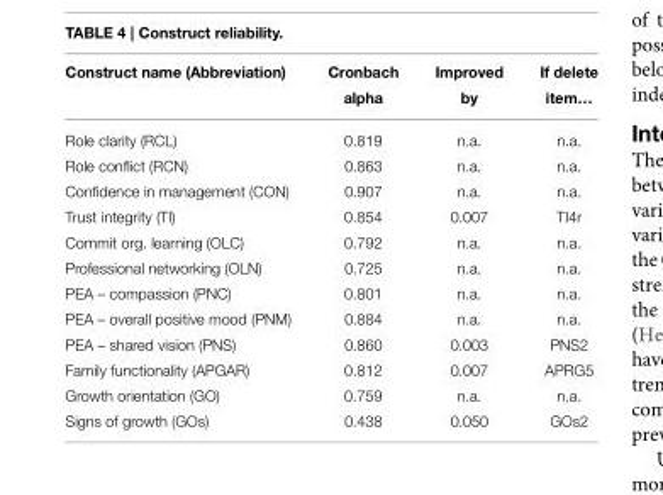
<table><thead><tr><td>Construct name (Abbreviation)</td><td>Cronbach alpha</td><td>Improved by</td><td>If delete item…</td></tr></thead><tbody><tr><td>Role clarity (RCL)</td><td>0.819</td><td>n.a.</td><td>n.a.</td></tr><tr><td>Role conflict (RCN)</td><td>0.863</td><td>n.a.</td><td>n.a.</td></tr><tr><td>Confidence in management (CON)</td><td>0.907</td><td>n.a.</td><td>n.a.</td></tr><tr><td>Trust integrity (TI)</td><td>0.854</td><td>0.007</td><td>TI4r</td></tr><tr><td>Commit org. learning (OLC)</td><td>0.792</td><td>n.a.</td><td>n.a.</td></tr><tr><td>Professional networking (OLN)</td><td>0.725</td><td>n.a.</td><td>n.a.</td></tr><tr><td>PEA – compassion (PNC)</td><td>0.801</td><td>n.a.</td><td>n.a.</td></tr><tr><td>PEA – overall positive mood (PNM)</td><td>0.884</td><td>n.a.</td><td>n.a.</td></tr><tr><td>PEA – shared vision (PNS)</td><td>0.860</td><td>0.003</td><td>PNS2</td></tr><tr><td>Family functionality (APGAR)</td><td>0.812</td><td>0.007</td><td>APRG5</td></tr><tr><td>Growth orientation (GO)</td><td>0.759</td><td>n.a.</td><td>n.a.</td></tr><tr><td>Signs of growth (GOs)</td><td>0.438</td><td>0.050</td><td>GOs2</td></tr></tbody></table>